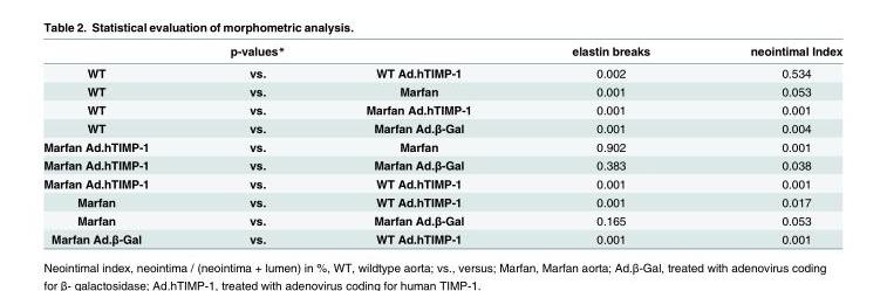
<table><thead><tr><td colspan="3">p-values*</td><td rowspan="2">elastin breaks 0.002</td><td rowspan="2">neointimal Index 0.534</td></tr><tr><td>WT</td><td>vs.</td><td>WT Ad.hTIMP-1</td></tr></thead><tbody><tr><td>WT</td><td>vs.</td><td>Marfan</td><td>0.001</td><td>0.053</td></tr><tr><td>WT</td><td>vs.</td><td>Marfan Ad.hTIMP-1</td><td>0.001</td><td>0.001</td></tr><tr><td>WT</td><td>vs.</td><td>Marfan Ad.β-Gal</td><td>0.001</td><td>0.004</td></tr><tr><td>Marfan Ad.hTIMP-1</td><td>vs.</td><td>Marfan</td><td>0.902</td><td>0.001</td></tr><tr><td>Marfan Ad.hTIMP-1</td><td>vs.</td><td>Marfan Ad.β-Gal</td><td>0.383</td><td>0.038</td></tr><tr><td>Marfan Ad.hTIMP-1</td><td>vs.</td><td>WT Ad.hTIMP-1</td><td>0.001</td><td>0.001</td></tr><tr><td>Marfan</td><td>vs.</td><td>WT Ad.hTIMP-1</td><td>0.001</td><td>0.017</td></tr><tr><td>Marfan</td><td>vs.</td><td>Marfan Ad.β-Gal</td><td>0.165</td><td>0.053</td></tr><tr><td>Marfan Ad.β-Gal</td><td>vs.</td><td>WT Ad.hTIMP-1</td><td>0.001</td><td>0.001</td></tr></tbody></table>